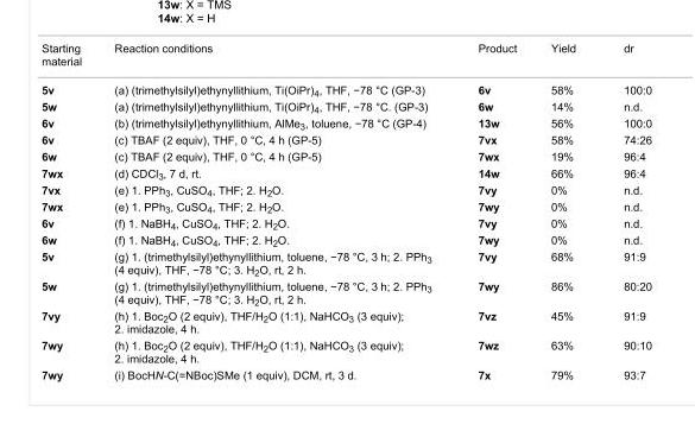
<table><tbody><tr><td>Starting material</td><td>Reaction conditions</td><td>Product</td><td>Yield</td><td>dr</td></tr><tr><td>5v</td><td>(a) (trimethylsilyl)ethynyllithium, Ti(OiPr)<sub>4</sub>, THF, −78 °C (GP-3)</td><td>6v</td><td>58%</td><td>100:0</td></tr><tr><td>5w</td><td>(a) (trimethylsilyl)ethynyllithium, Ti(OiPr)<sub>4</sub>, THF, −78 °C. (GP-3)</td><td>6w</td><td>14%</td><td>n.d.</td></tr><tr><td>6v</td><td>(b) (trimethylsilyl)ethynyllithium, AlMe<sub>3</sub>, toluene, −78 °C (GP-4)</td><td>13w</td><td>56%</td><td>100:0</td></tr><tr><td>6v</td><td>(c) TBAF (2 equiv), THF, 0 °C, 4 h (GP-5)</td><td>7vx</td><td>58%</td><td>74:26</td></tr><tr><td>6w</td><td>(c) TBAF (2 equiv), THF, 0 °C, 4 h (GP-5)</td><td>7wx</td><td>19%</td><td>96:4</td></tr><tr><td>7wx</td><td>(d) CDCl<sub>3</sub>, 7 d, rt.</td><td>14w</td><td>66%</td><td>96:4</td></tr><tr><td>7vx</td><td>(e) 1. PPh<sub>3</sub>, CuSO<sub>4</sub>, THF; 2. H<sub>2</sub>O.</td><td>7vy</td><td>0%</td><td>n.d.</td></tr><tr><td>7wx</td><td>(e) 1. PPh<sub>3</sub>, CuSO<sub>4</sub>, THF; 2. H<sub>2</sub>O.</td><td>7wy</td><td>0%</td><td>n.d.</td></tr><tr><td>6v</td><td>(f) 1. NaBH<sub>4</sub>, CuSO<sub>4</sub>, THF; 2. H<sub>2</sub>O.</td><td>7vy</td><td>0%</td><td>n.d.</td></tr><tr><td>6w</td><td>(f) 1. NaBH<sub>4</sub>, CuSO<sub>4</sub>, THF; 2. H<sub>2</sub>O.</td><td>7wy</td><td>0%</td><td>n.d.</td></tr><tr><td>5v</td><td>(g) 1. (trimethylsilyl)ethynyllithium, toluene, −78 °C, 3 h; 2. PPh<sub>3</sub> (4 equiv), THF, −78 °C; 3. H<sub>2</sub>O, rt, 2 h.</td><td>7vy</td><td>68%</td><td>91:9</td></tr><tr><td>5w</td><td>(g) 1. (trimethylsilyl)ethynyllithium, toluene, −78 °C, 3 h; 2. PPh<sub>3</sub> (4 equiv), THF, −78 °C; 3. H<sub>2</sub>O, rt, 2 h.</td><td>7wy</td><td>86%</td><td>80:20</td></tr><tr><td>7vy</td><td>(h) 1. Boc<sub>2</sub>O (2 equiv), THF/H<sub>2</sub>O (1:1), NaHCO<sub>3</sub> (3 equiv); 2. imidazole, 4 h.</td><td>7vz</td><td>45%</td><td>91:9</td></tr><tr><td>7wy</td><td>(h) 1. Boc<sub>2</sub>O (2 equiv), THF/H<sub>2</sub>O (1:1), NaHCO<sub>3</sub> (3 equiv); 2. imidazole, 4 h.</td><td>7wz</td><td>63%</td><td>90:10</td></tr><tr><td>7wy</td><td>(i) BocHN-C(=NBoc)SMe (1 equiv), DCM, rt, 3 d.</td><td>7x</td><td>79%</td><td>93:7</td></tr></tbody></table>